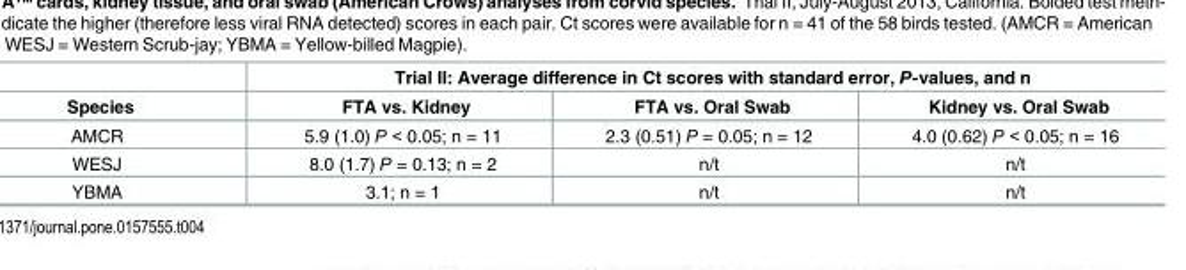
<table><thead><tr><td rowspan="2">Species</td><td colspan="3">Trial II: Average difference in Ct scores with standard error, P-values, and n</td></tr><tr><td>FTA vs. Kidney</td><td>FTA vs. Oral Swab</td><td>Kidney vs. Oral Swab</td></tr></thead><tbody><tr><td>AMCR</td><td>5.9 (1.0) P &lt; 0.05; n = 11</td><td>2.3 (0.51) P = 0.05; n = 12</td><td>4.0 (0.62) P &lt; 0.05; n = 16</td></tr><tr><td>WESJ</td><td>8.0 (1.7) P = 0.13; n = 2</td><td>n/t</td><td>n/t</td></tr><tr><td>YBMA</td><td>3.1; n = 1</td><td>n/t</td><td>n/t</td></tr></tbody></table>